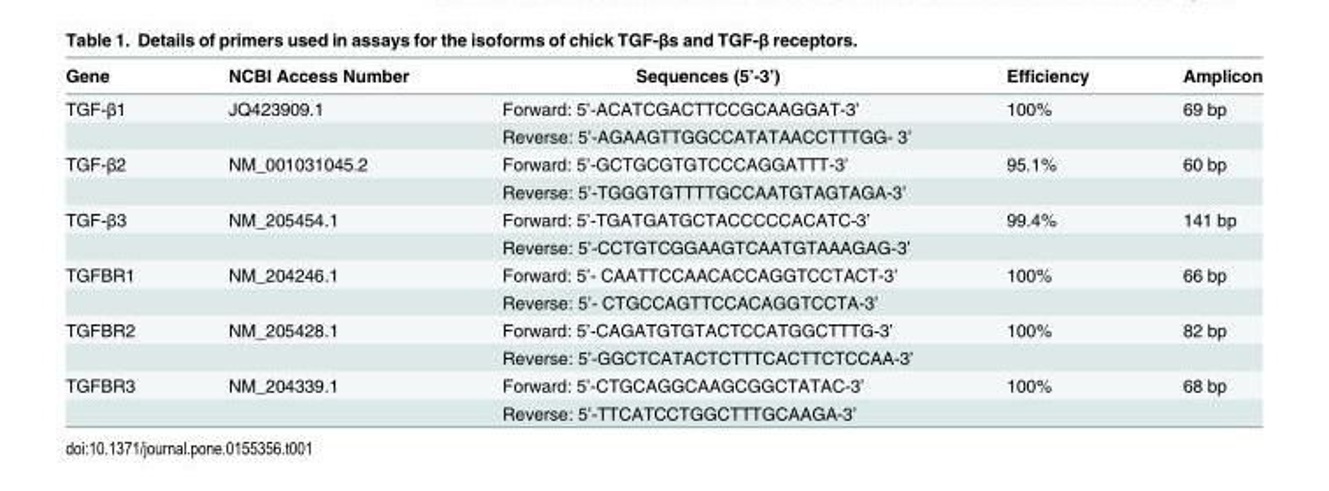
<table><thead><tr><td>Gene</td><td>NCBI Access Number</td><td>Sequences (5’-3’)</td><td>Efficiency</td><td>Amplicon</td></tr></thead><tbody><tr><td rowspan="2">TGF-β1</td><td>JQ423909.1</td><td>Forward: 5’-ACATCGACTTCCGCAAGGAT-3’</td><td>100%</td><td>69 bp</td></tr><tr><td></td><td>Reverse: 5’-AGAAGTTGGCCATATAACCTTTGG- 3’</td><td></td><td></td></tr><tr><td rowspan="2">TGF-β2</td><td>NM_001031045.2</td><td>Forward: 5’-GCTGCGTGTCCCAGGATTT-3’</td><td>95.1%</td><td>60 bp</td></tr><tr><td></td><td>Reverse: 5’-TGGGTGTTTTGCCAATGTAGTAGA-3’</td><td></td><td></td></tr><tr><td rowspan="2">TGF-β3</td><td>NM_205454.1</td><td>Forward: 5’-TGATGATGCTACCCCCACATC-3’</td><td>99.4%</td><td>141 bp</td></tr><tr><td></td><td>Reverse: 5’-CCTGTCGGAAGTCAATGTAAAGAG-3’</td><td></td><td></td></tr><tr><td rowspan="2">TGFBR1</td><td>NM_204246.1</td><td>Forward: 5’- CAATTCCAACACCAGGTCCTACT-3’</td><td>100%</td><td>66 bp</td></tr><tr><td></td><td>Reverse: 5’- CTGCCAGTTCCACAGGTCCTA-3’</td><td></td><td></td></tr><tr><td rowspan="2">TGFBR2</td><td>NM_205428.1</td><td>Forward: 5’-CAGATGTGTACTCCATGGCTTTG-3’</td><td>100%</td><td>82 bp</td></tr><tr><td></td><td>Reverse: 5’-GGCTCATACTCTTTCACTTCTCCAA-3’</td><td></td><td></td></tr><tr><td rowspan="2">TGFBR3</td><td>NM_204339.1</td><td>Forward: 5’-CTGCAGGCAAGCGGCTATAC-3’</td><td>100%</td><td>68 bp</td></tr><tr><td></td><td>Reverse: 5’-TTCATCCTGGCTTTGCAAGA-3’</td><td></td><td></td></tr></tbody></table>